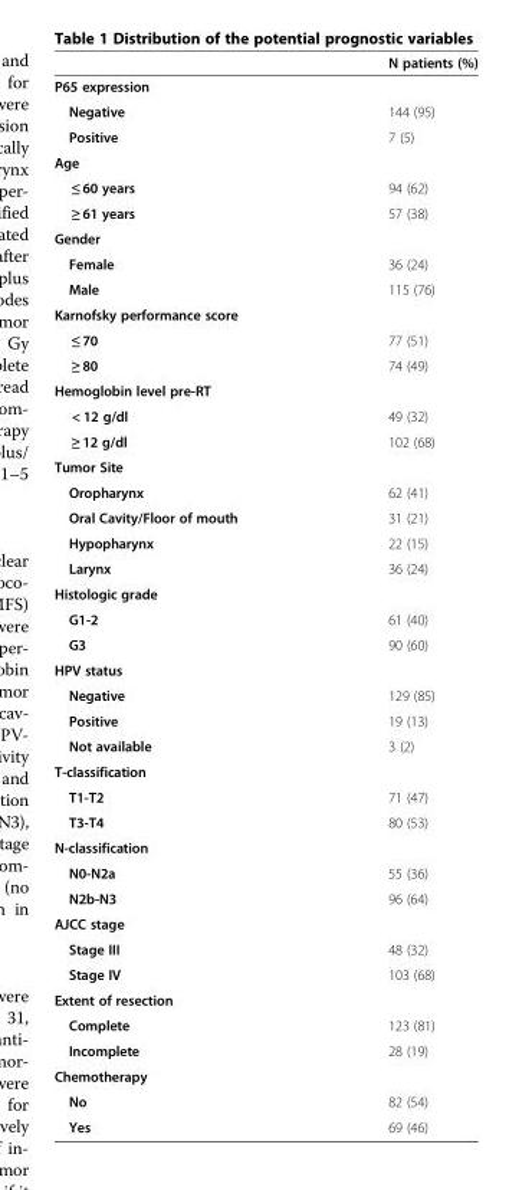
<table><thead><tr><td></td><td>N patients (%)</td></tr></thead><tbody><tr><td colspan="2">P65 expression</td></tr><tr><td>Negative</td><td>144 (95)</td></tr><tr><td>Positive</td><td>7 (5)</td></tr><tr><td colspan="2">Age</td></tr><tr><td>≤ 60 years</td><td>94 (62)</td></tr><tr><td>≥ 61 years</td><td>57 (38)</td></tr><tr><td colspan="2">Gender</td></tr><tr><td>Female</td><td>36 (24)</td></tr><tr><td>Male</td><td>115 (76)</td></tr><tr><td colspan="2">Karnofsky performance score</td></tr><tr><td>≤ 70</td><td>77 (51)</td></tr><tr><td>≥ 80</td><td>74 (49)</td></tr><tr><td colspan="2">Hemoglobin level pre-RT</td></tr><tr><td>&lt; 12 g/dl</td><td>49 (32)</td></tr><tr><td>≥ 12 g/dl</td><td>102 (68)</td></tr><tr><td colspan="2">Tumor Site</td></tr><tr><td>Oropharynx</td><td>62 (41)</td></tr><tr><td>Oral Cavity/Floor of mouth</td><td>31 (21)</td></tr><tr><td>Hypopharynx</td><td>22 (15)</td></tr><tr><td>Larynx</td><td>36 (24)</td></tr><tr><td colspan="2">Histologic grade</td></tr><tr><td>G1-2</td><td>61 (40)</td></tr><tr><td>G3</td><td>90 (60)</td></tr><tr><td colspan="2">HPV status</td></tr><tr><td>Negative</td><td>129 (85)</td></tr><tr><td>Positive</td><td>19 (13)</td></tr><tr><td>Not available</td><td>3 (2)</td></tr><tr><td colspan="2">T-classification</td></tr><tr><td>T1-T2</td><td>71 (47)</td></tr><tr><td>T3-T4</td><td>80 (53)</td></tr><tr><td colspan="2">N-classification</td></tr><tr><td>N0-N2a</td><td>55 (36)</td></tr><tr><td>N2b-N3</td><td>96 (64)</td></tr><tr><td colspan="2">AJCC stage</td></tr><tr><td>Stage III</td><td>48 (32)</td></tr><tr><td>Stage IV</td><td>103 (68)</td></tr><tr><td colspan="2">Extent of resection</td></tr><tr><td>Complete</td><td>123 (81)</td></tr><tr><td>Incomplete</td><td>28 (19)</td></tr><tr><td colspan="2">Chemotherapy</td></tr><tr><td>No</td><td>82 (54)</td></tr><tr><td>Yes</td><td>69 (46)</td></tr></tbody></table>